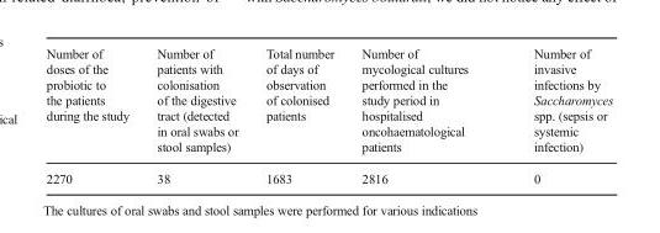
<table><thead><tr><td>Number of doses of the probiotic to the patients during the study</td><td>Number of patients with colonisation of the digestive tract (detected in oral swabs or stool samples)</td><td>Total number of days of observation of colonised patients</td><td>Number of mycological cultures performed in the study period in hospitalised oncohaematological patients</td><td>Number of invasive infections by Saccharomyces spp. (sepsis or systemic infection)</td></tr></thead><tbody><tr><td>2270</td><td>38</td><td>1683</td><td>2816</td><td>0</td></tr></tbody></table>